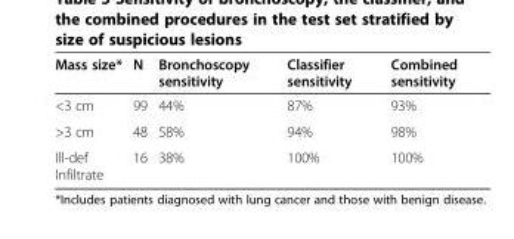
<table><thead><tr><td>Mass size*</td><td>N</td><td>Bronchoscopy sensitivity</td><td>Classifier sensitivity</td><td>Combined sensitivity</td></tr></thead><tbody><tr><td>&lt;3 cm</td><td>99</td><td>44%</td><td>87%</td><td>93%</td></tr><tr><td>&gt;3 cm</td><td>48</td><td>58%</td><td>94%</td><td>98%</td></tr><tr><td>Ill-def Infiltrate</td><td>16</td><td>38%</td><td>100%</td><td>100%</td></tr></tbody></table>